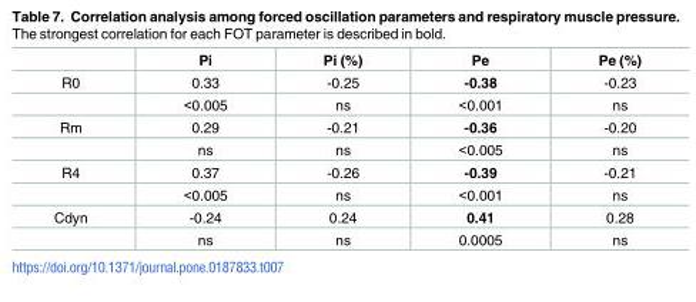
<table><thead><tr><td></td><td>Pi</td><td>Pi (%)</td><td>Pe</td><td>Pe (%)</td></tr></thead><tbody><tr><td rowspan="2">R0</td><td>0.33</td><td>-0.25</td><td>-0.38</td><td>-0.23</td></tr><tr><td>&lt;0.005</td><td>ns</td><td>&lt;0.001</td><td>ns</td></tr><tr><td rowspan="2">Rm</td><td>0.29</td><td>-0.21</td><td>-0.36</td><td>-0.20</td></tr><tr><td>ns</td><td>ns</td><td>&lt;0.005</td><td>ns</td></tr><tr><td rowspan="2">R4</td><td>0.37</td><td>-0.26</td><td>-0.39</td><td>-0.21</td></tr><tr><td>&lt;0.005</td><td>ns</td><td>&lt;0.001</td><td>ns</td></tr><tr><td rowspan="2">Cdyn</td><td>-0.24</td><td>0.24</td><td>0.41</td><td>0.28</td></tr><tr><td>ns</td><td>ns</td><td>0.0005</td><td>ns</td></tr></tbody></table>